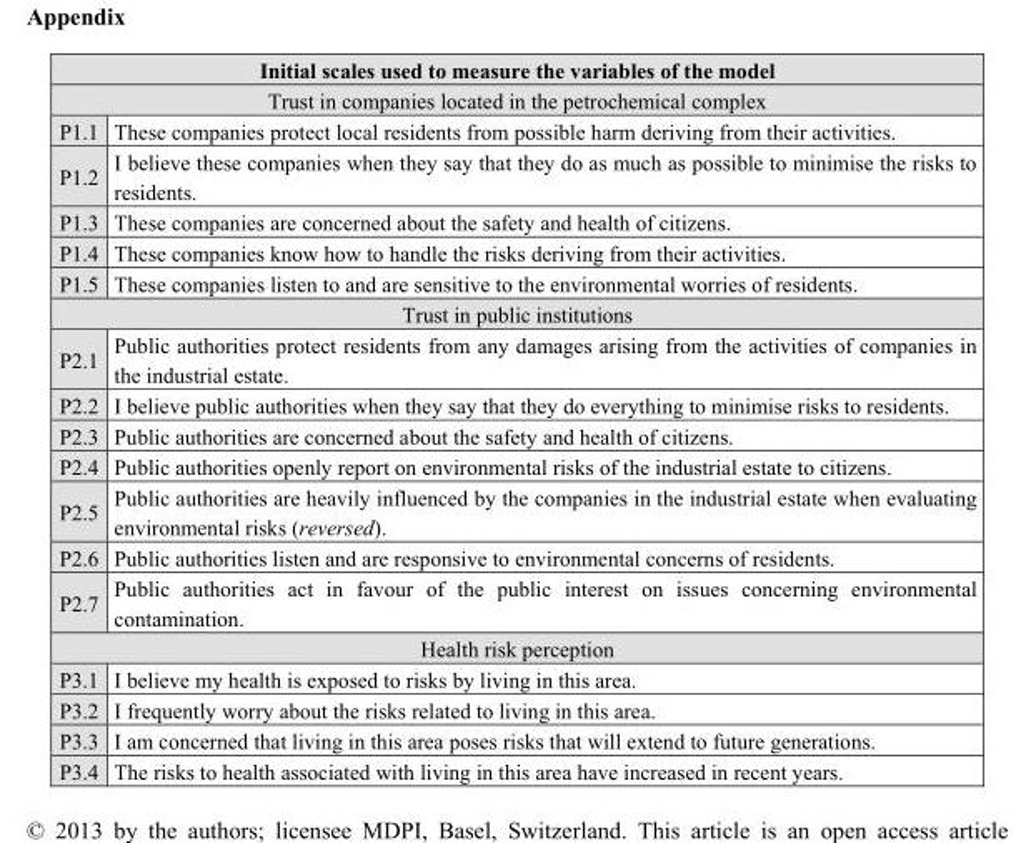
<table><thead><tr><td rowspan="2" colspan="2">Initial scales used to measure the variables of the model Trust in companies located in the petrochemical complex</td></tr><tr></tr><tr><td>P1.1</td><td>These companies protect local residents from possible harm deriving from their activities.</td></tr></thead><tbody><tr><td>P1.2</td><td>I believe these companies when they say that they do as much as possible to minimise the risks to residents.</td></tr><tr><td>P1.3</td><td>These companies are concerned about the safety and health of citizens.</td></tr><tr><td>P1.4</td><td>These companies know how to handle the risks deriving from their activities.</td></tr><tr><td>P1.5</td><td>These companies listen to and are sensitive to the environmental worries of residents.</td></tr><tr><td colspan="2">Trust in public institutions</td></tr><tr><td>P2.1</td><td>Public authorities protect residents from any damages arising from the activities of companies in the industrial estate.</td></tr><tr><td>P2.2</td><td>I believe public authorities when they say that they do everything to minimise risks to residents.</td></tr><tr><td>P2.3</td><td>Public authorities are concerned about the safety and health of citizens.</td></tr><tr><td>P2.4</td><td>Public authorities openly report on environmental risks of the industrial estate to citizens.</td></tr><tr><td>P2.5</td><td>Public authorities are heavily influenced by the companies in the industrial estate when evaluating environmental risks (reversed).</td></tr><tr><td>P2.6</td><td>Public authorities listen and are responsive to environmental concerns of residents.</td></tr><tr><td>P2.7</td><td>Public authorities act in favour of the public interest on issues concerning environmental contamination.</td></tr><tr><td colspan="2">Health risk perception</td></tr><tr><td>P3.1</td><td>I believe my health is exposed to risks by living in this area.</td></tr><tr><td>P3.2</td><td>I frequently worry about the risks related to living in this area.</td></tr><tr><td>P3.3</td><td>I am concerned that living in this area poses risks that will extend to future generations.</td></tr><tr><td>P3.4</td><td>The risks to health associated with living in this area have increased in recent years.</td></tr></tbody></table>